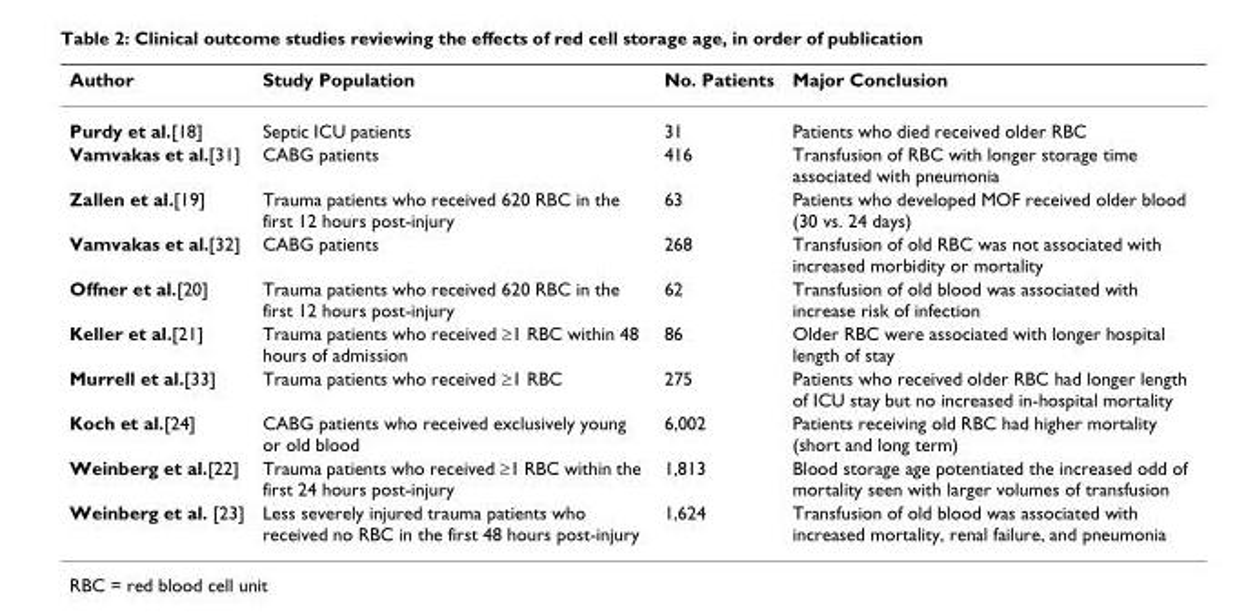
<table><thead><tr><td>Author</td><td>Study Population</td><td>No. Patients</td><td>Major Conclusion</td></tr></thead><tbody><tr><td>Purdy et al.[18]</td><td>Septic ICU patients</td><td>31</td><td>Patients who died received older RBC</td></tr><tr><td>Vamvakas et al.[31]</td><td>CABG patients</td><td>416</td><td>Transfusion of RBC with longer storage time associated with pneumonia</td></tr><tr><td>Zallen et al.[19]</td><td>Trauma patients who received 620 RBC in the first 12 hours post-injury</td><td>63</td><td>Patients who developed MOF received older blood (30 vs. 24 days)</td></tr><tr><td>Vamvakas et al.[32]</td><td>CABG patients</td><td>268</td><td>Transfusion of old RBC was not associated with increased morbidity or mortality</td></tr><tr><td>Offner et al.[20]</td><td>Trauma patients who received 620 RBC in the first 12 hours post-injury</td><td>62</td><td>Transfusion of old blood was associated with increase risk of infection</td></tr><tr><td>Keller et al.[21]</td><td>Trauma patients who received ≥1 RBC within 48 hours of admission</td><td>86</td><td>Older RBC were associated with longer hospital length of stay</td></tr><tr><td>Murrell et al.[33]</td><td>Trauma patients who received ≥1 RBC</td><td>275</td><td>Patients who received older RBC had longer length of ICU stay but no increased in-hospital mortality</td></tr><tr><td>Koch et al.[24]</td><td>CABG patients who received exclusively young or old blood</td><td>6,002</td><td>Patients receiving old RBC had higher mortality (short and long term)</td></tr><tr><td>Weinberg et al.[22]</td><td>Trauma patients who received ≥1 RBC within the first 24 hours post-injury</td><td>1,813</td><td>Blood storage age potentiated the increased odd of mortality seen with larger volumes of transfusion</td></tr><tr><td>Weinberg et al. [23]</td><td>Less severely injured trauma patients who received no RBC in the first 48 hours post-injury</td><td>1,624</td><td>Transfusion of old blood was associated with increased mortality, renal failure, and pneumonia</td></tr></tbody></table>